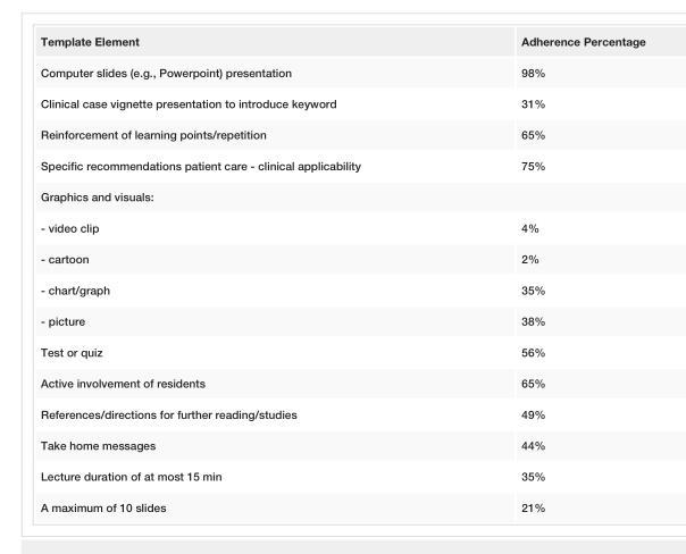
<table><tbody><tr><td>Template Element</td><td>Adherence Percentage</td></tr><tr><td>Computer slides (e.g., Powerpoint) presentation</td><td>98%</td></tr><tr><td>Clinical case vignette presentation to introduce keyword</td><td>31%</td></tr><tr><td>Reinforcement of learning points/repetition</td><td>65%</td></tr><tr><td>Specific recommendations patient care - clinical applicability</td><td>75%</td></tr><tr><td colspan="2">Graphics and visuals:</td></tr><tr><td>- video clip</td><td>4%</td></tr><tr><td>- cartoon</td><td>2%</td></tr><tr><td>- chart/graph</td><td>35%</td></tr><tr><td>- picture</td><td>38%</td></tr><tr><td>Test or quiz</td><td>56%</td></tr><tr><td>Active involvement of residents</td><td>65%</td></tr><tr><td>References/directions for further reading/studies</td><td>49%</td></tr><tr><td>Take home messages</td><td>44%</td></tr><tr><td>Lecture duration of at most 15 min</td><td>35%</td></tr><tr><td>A maximum of 10 slides</td><td>21%</td></tr></tbody></table>